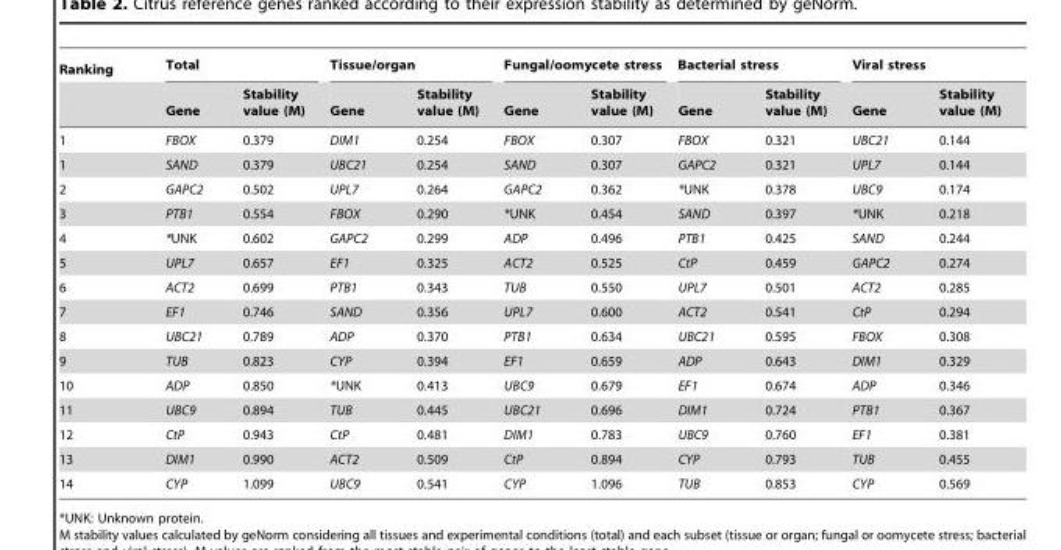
<table><thead><tr><td rowspan="2">Ranking</td><td colspan="2">Total</td><td colspan="2">Tissue/organ</td><td colspan="2">Fungal/oomycete stress</td><td colspan="2">Bacterial stress</td><td colspan="2">Viral stress</td></tr><tr><td>Gene</td><td>Stability value (M)</td><td>Gene</td><td>Stability value (M)</td><td>Gene</td><td>Stability value (M)</td><td>Gene</td><td>Stability value (M)</td><td>Gene</td><td>Stability value (M)</td></tr></thead><tbody><tr><td>1</td><td>FBOX</td><td>0.379</td><td>DIM1</td><td>0.254</td><td>FBOX</td><td>0.307</td><td>FBOX</td><td>0.321</td><td>UBC21</td><td>0.144</td></tr><tr><td>1</td><td>SAND</td><td>0.379</td><td>UBC21</td><td>0.254</td><td>SAND</td><td>0.307</td><td>GAPC2</td><td>0.321</td><td>UPL7</td><td>0.144</td></tr><tr><td>2</td><td>GAPC2</td><td>0.502</td><td>UPL7</td><td>0.264</td><td>GAPC2</td><td>0.362</td><td>*UNK</td><td>0.378</td><td>UBC9</td><td>0.174</td></tr><tr><td>3</td><td>PTB1</td><td>0.554</td><td>FBOX</td><td>0.290</td><td>*UNK</td><td>0.454</td><td>SAND</td><td>0.397</td><td>*UNK</td><td>0.218</td></tr><tr><td>4</td><td>*UNK</td><td>0.602</td><td>GAPC2</td><td>0.299</td><td>ADP</td><td>0.496</td><td>PTB1</td><td>0.425</td><td>SAND</td><td>0.244</td></tr><tr><td>5</td><td>UPL7</td><td>0.657</td><td>EF1</td><td>0.325</td><td>ACT2</td><td>0.525</td><td>CtP</td><td>0.459</td><td>GAPC2</td><td>0.274</td></tr><tr><td>6</td><td>ACT2</td><td>0.699</td><td>PTB1</td><td>0.343</td><td>TUB</td><td>0.550</td><td>UPL7</td><td>0.501</td><td>ACT2</td><td>0.285</td></tr><tr><td>7</td><td>EF1</td><td>0.746</td><td>SAND</td><td>0.356</td><td>UPL7</td><td>0.600</td><td>ACT2</td><td>0.541</td><td>CtP</td><td>0.294</td></tr><tr><td>8</td><td>UBC21</td><td>0.789</td><td>ADP</td><td>0.370</td><td>PTB1</td><td>0.634</td><td>UBC21</td><td>0.595</td><td>FBOX</td><td>0.308</td></tr><tr><td>9</td><td>TUB</td><td>0.823</td><td>CYP</td><td>0.394</td><td>EF1</td><td>0.659</td><td>ADP</td><td>0.643</td><td>DIM1</td><td>0.329</td></tr><tr><td>10</td><td>ADP</td><td>0.850</td><td>*UNK</td><td>0.413</td><td>UBC9</td><td>0.679</td><td>EF1</td><td>0.674</td><td>ADP</td><td>0.346</td></tr><tr><td>11</td><td>UBC9</td><td>0.894</td><td>TUB</td><td>0.445</td><td>UBC21</td><td>0.696</td><td>DIM1</td><td>0.724</td><td>PTB1</td><td>0.367</td></tr><tr><td>12</td><td>CtP</td><td>0.943</td><td>CtP</td><td>0.481</td><td>DIM1</td><td>0.783</td><td>UBC9</td><td>0.760</td><td>EF1</td><td>0.381</td></tr><tr><td>13</td><td>DIM1</td><td>0.990</td><td>ACT2</td><td>0.509</td><td>CtP</td><td>0.894</td><td>CYP</td><td>0.793</td><td>TUB</td><td>0.455</td></tr><tr><td>14</td><td>CYP</td><td>1.099</td><td>UBC9</td><td>0.541</td><td>CYP</td><td>1.096</td><td>TUB</td><td>0.853</td><td>CYP</td><td>0.569</td></tr></tbody></table>